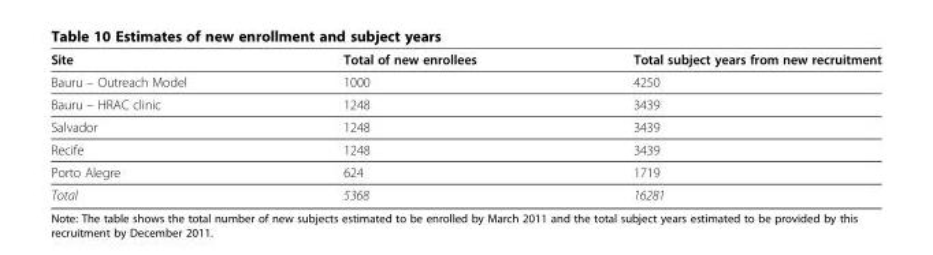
<table><thead><tr><td>Site</td><td>Total of new enrollees</td><td>Total subject years from new recruitment</td></tr></thead><tbody><tr><td>Bauru – Outreach Model</td><td>1000</td><td>4250</td></tr><tr><td>Bauru – HRAC clinic</td><td>1248</td><td>3439</td></tr><tr><td>Salvador</td><td>1248</td><td>3439</td></tr><tr><td>Recife</td><td>1248</td><td>3439</td></tr><tr><td>Porto Alegre</td><td>624</td><td>1719</td></tr><tr><td>Total</td><td>5368</td><td>16281</td></tr></tbody></table>